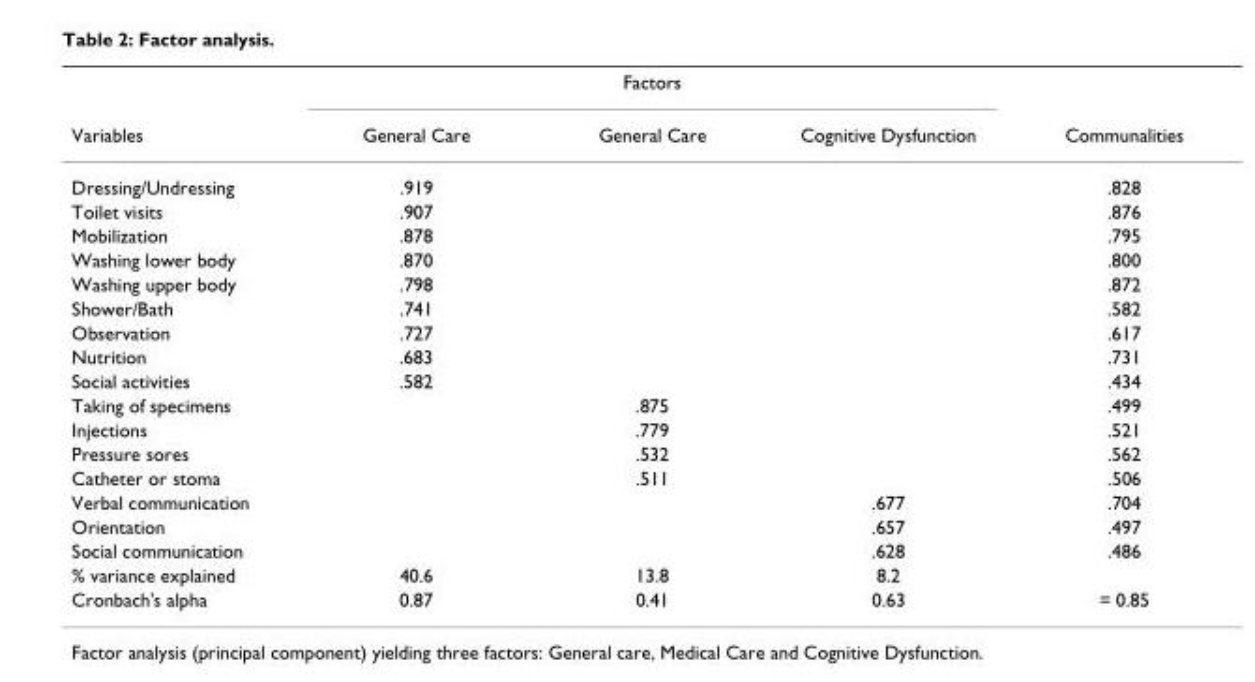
<table><thead><tr><td rowspan="2">Variables</td><td colspan="3">Factors</td><td rowspan="2">Communalities</td></tr><tr><td>General Care</td><td>General Care</td><td>Cognitive Dysfunction</td></tr></thead><tbody><tr><td>Dressing/Undressing</td><td>.919</td><td></td><td></td><td>.828</td></tr><tr><td>Toilet visits</td><td>.907</td><td></td><td></td><td>.876</td></tr><tr><td>Mobilization</td><td>.878</td><td></td><td></td><td>.795</td></tr><tr><td>Washing lower body</td><td>.870</td><td></td><td></td><td>.800</td></tr><tr><td>Washing upper body</td><td>.798</td><td></td><td></td><td>.872</td></tr><tr><td>Shower/Bath</td><td>.741</td><td></td><td></td><td>.582</td></tr><tr><td>Observation</td><td>.727</td><td></td><td></td><td>.617</td></tr><tr><td>Nutrition</td><td>.683</td><td></td><td></td><td>.731</td></tr><tr><td>Social activities</td><td>.582</td><td></td><td></td><td>.434</td></tr><tr><td>Taking of specimens</td><td></td><td>.875</td><td></td><td>.499</td></tr><tr><td>Injections</td><td></td><td>.779</td><td></td><td>.521</td></tr><tr><td>Pressure sores</td><td></td><td>.532</td><td></td><td>.562</td></tr><tr><td>Catheter or stoma</td><td></td><td>.511</td><td></td><td>.506</td></tr><tr><td>Verbal communication</td><td></td><td></td><td>.677</td><td>.704</td></tr><tr><td>Orientation</td><td></td><td></td><td>.657</td><td>.497</td></tr><tr><td>Social communication</td><td></td><td></td><td>.628</td><td>.486</td></tr><tr><td>% variance explained</td><td>40.6</td><td>13.8</td><td>8.2</td><td></td></tr><tr><td>Cronbach&#x27;s alpha</td><td>0.87</td><td>0.41</td><td>0.63</td><td>= 0.85</td></tr></tbody></table>